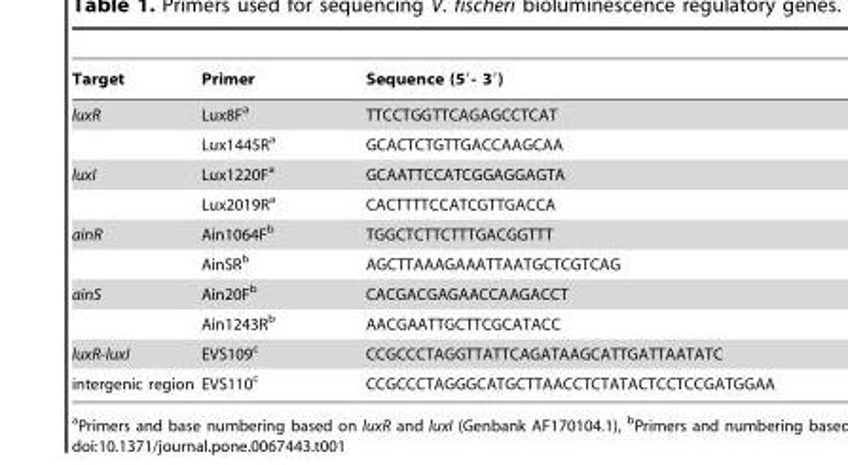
<table><thead><tr><td>Target</td><td>Primer</td><td>Sequence (5′- 3′)</td></tr></thead><tbody><tr><td rowspan="2">luxR</td><td>Lux8F<sup>a</sup></td><td>TTCCTGGTTCAGAGCCTCAT</td></tr><tr><td>Lux1445R<sup>a</sup></td><td>GCACTCTGTTGACCAAGCAA</td></tr><tr><td rowspan="2">luxI</td><td>Lux1220F<sup>a</sup></td><td>GCAATTCCATCGGAGGAGTA</td></tr><tr><td>Lux2019R<sup>a</sup></td><td>CACTTTTCCATCGTTGACCA</td></tr><tr><td rowspan="2">ainR</td><td>Ain1064F<sup>b</sup></td><td>TGGCTCTTCTTTGACGGTTT</td></tr><tr><td>AinSR<sup>b</sup></td><td>AGCTTAAAGAAATTAATGCTCGTCAG</td></tr><tr><td rowspan="2">ainS</td><td>Ain20F<sup>b</sup></td><td>CACGACGAGAACCAAGACCT</td></tr><tr><td>Ain1243R<sup>b</sup></td><td>AACGAATTGCTTCGCATACC</td></tr><tr><td>luxR-luxI</td><td>EVS109<sup>c</sup></td><td>CCGCCCTAGGTTATTCAGATAAGCATTGATTAATATC</td></tr><tr><td>intergenic region</td><td>EVS110<sup>c</sup></td><td>CCGCCCTAGGGCATGCTTAACCTCTATACTCCTCCGATGGAA</td></tr></tbody></table>